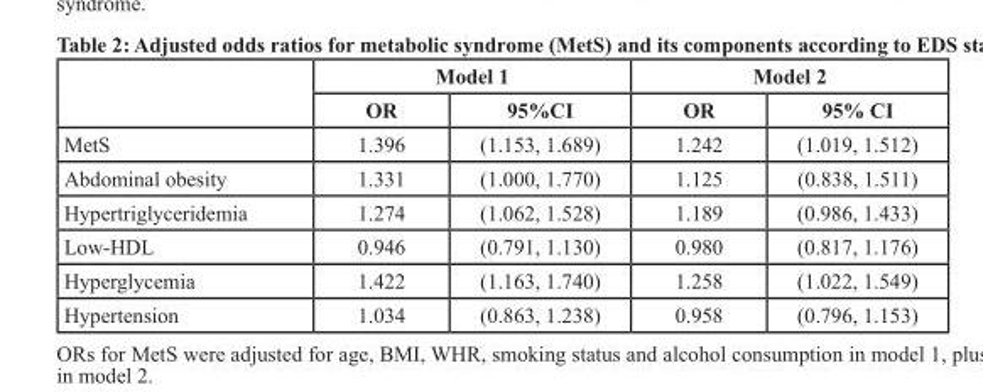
<table><thead><tr><td rowspan="2"></td><td colspan="2">Model 1</td><td colspan="2">Model 2</td></tr><tr><td>OR</td><td>95%CI</td><td>OR</td><td>95% CI</td></tr></thead><tbody><tr><td>MetS</td><td>1.396</td><td>(1.153, 1.689)</td><td>1.242</td><td>(1.019, 1.512)</td></tr><tr><td>Abdominal obesity</td><td>1.331</td><td>(1.000, 1.770)</td><td>1.125</td><td>(0.838, 1.511)</td></tr><tr><td>Hypertriglyceridemia</td><td>1.274</td><td>(1.062, 1.528)</td><td>1.189</td><td>(0.986, 1.433)</td></tr><tr><td>Low-HDL</td><td>0.946</td><td>(0.791, 1.130)</td><td>0.980</td><td>(0.817, 1.176)</td></tr><tr><td>Hyperglycemia</td><td>1.422</td><td>(1.163, 1.740)</td><td>1.258</td><td>(1.022, 1.549)</td></tr><tr><td>Hypertension</td><td>1.034</td><td>(0.863, 1.238)</td><td>0.958</td><td>(0.796, 1.153)</td></tr></tbody></table>